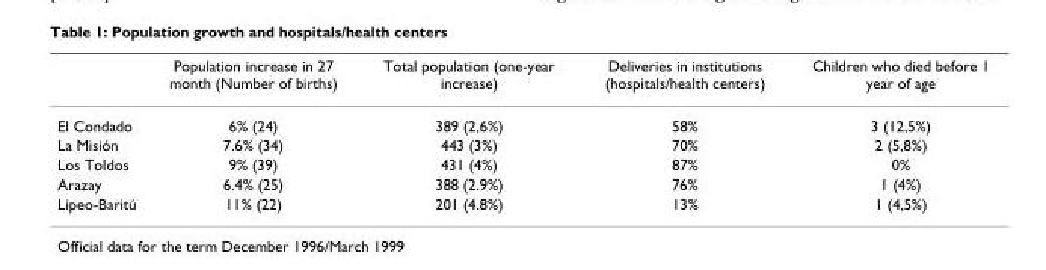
<table><thead><tr><td></td><td>Population increase in 27 month (Number of births)</td><td>Total population (one-year increase)</td><td>Deliveries in institutions (hospitals/health centers)</td><td>Children who died before 1 year of age</td></tr></thead><tbody><tr><td>El Condado</td><td>6% (24)</td><td>389 (2,6%)</td><td>58%</td><td>3 (12,5%)</td></tr><tr><td>La Misión</td><td>7.6% (34)</td><td>443 (3%)</td><td>70%</td><td>2 (5,8%)</td></tr><tr><td>Los Toldos</td><td>9% (39)</td><td>431 (4%)</td><td>87%</td><td>0%</td></tr><tr><td>Arazay</td><td>6.4% (25)</td><td>388 (2.9%)</td><td>76%</td><td>1 (4%)</td></tr><tr><td>Lipeo-Baritú</td><td>11% (22)</td><td>201 (4.8%)</td><td>13%</td><td>1 (4,5%)</td></tr></tbody></table>